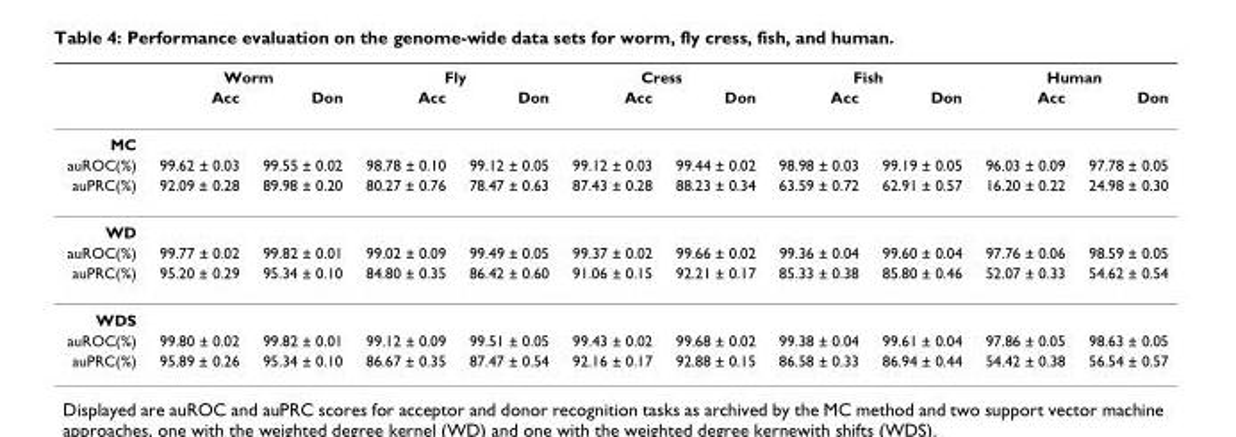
<table><thead><tr><td rowspan="2"></td><td colspan="2">Worm</td><td colspan="2">Fly</td><td colspan="2">Cress</td><td colspan="2">Fish</td><td colspan="2">Human</td></tr><tr><td>Acc</td><td>Don</td><td>Acc</td><td>Don</td><td>Acc</td><td>Don</td><td>Acc</td><td>Don</td><td>Acc</td><td>Don</td></tr></thead><tbody><tr><td colspan="11">MC</td></tr><tr><td>auROC(%)</td><td>99.62 ± 0.03</td><td>99.55 ± 0.02</td><td>98.78 ± 0.10</td><td>99.12 ± 0.05</td><td>99.12 ± 0.03</td><td>99.44 ± 0.02</td><td>98.98 ± 0.03</td><td>99.19 ± 0.05</td><td>96.03 ± 0.09</td><td>97.78 ± 0.05</td></tr><tr><td>auPRC(%)</td><td>92.09 ± 0.28</td><td>89.98 ± 0.20</td><td>80.27 ± 0.76</td><td>78.47 ± 0.63</td><td>87.43 ± 0.28</td><td>88.23 ± 0.34</td><td>63.59 ± 0.72</td><td>62.91 ± 0.57</td><td>16.20 ± 0.22</td><td>24.98 ± 0.30</td></tr><tr><td colspan="11">WD</td></tr><tr><td>auROC(%)</td><td>99.77 ± 0.02</td><td>99.82 ± 0.01</td><td>99.02 ± 0.09</td><td>99.49 ± 0.05</td><td>99.37 ± 0.02</td><td>99.66 ± 0.02</td><td>99.36 ± 0.04</td><td>99.60 ± 0.04</td><td>97.76 ± 0.06</td><td>98.59 ± 0.05</td></tr><tr><td>auPRC(%)</td><td>95.20 ± 0.29</td><td>95.34 ± 0.10</td><td>84.80 ± 0.35</td><td>86.42 ± 0.60</td><td>91.06 ± 0.15</td><td>92.21 ± 0.17</td><td>85.33 ± 0.38</td><td>85.80 ± 0.46</td><td>52.07 ± 0.33</td><td>54.62 ± 0.54</td></tr><tr><td colspan="11">WDS</td></tr><tr><td>auROC(%)</td><td>99.80 ± 0.02</td><td>99.82 ± 0.01</td><td>99.12 ± 0.09</td><td>99.51 ± 0.05</td><td>99.43 ± 0.02</td><td>99.68 ± 0.02</td><td>99.38 ± 0.04</td><td>99.61 ± 0.04</td><td>97.86 ± 0.05</td><td>98.63 ± 0.05</td></tr><tr><td>auPRC(%)</td><td>95.89 ± 0.26</td><td>95.34 ± 0.10</td><td>86.67 ± 0.35</td><td>87.47 ± 0.54</td><td>92.16 ± 0.17</td><td>92.88 ± 0.15</td><td>86.58 ± 0.33</td><td>86.94 ± 0.44</td><td>54.42 ± 0.38</td><td>56.54 ± 0.57</td></tr></tbody></table>